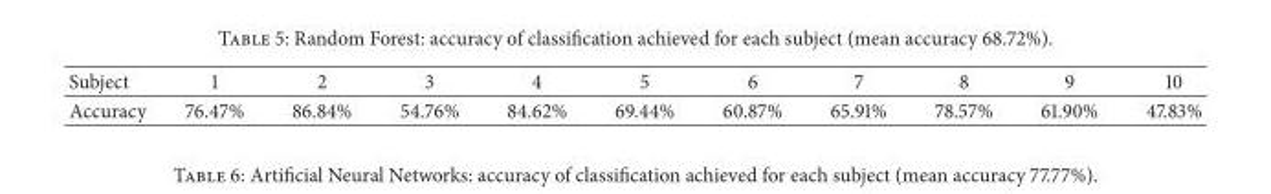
<table><thead><tr><td>Subject</td><td>1</td><td>2</td><td>3</td><td>4</td><td>5</td><td>6</td><td>7</td><td>8</td><td>9</td><td>10</td></tr></thead><tbody><tr><td>Accuracy</td><td>76.47%</td><td>86.84%</td><td>54.76%</td><td>84.62%</td><td>69.44%</td><td>60.87%</td><td>65.91%</td><td>78.57%</td><td>61.90%</td><td>47.83%</td></tr></tbody></table>